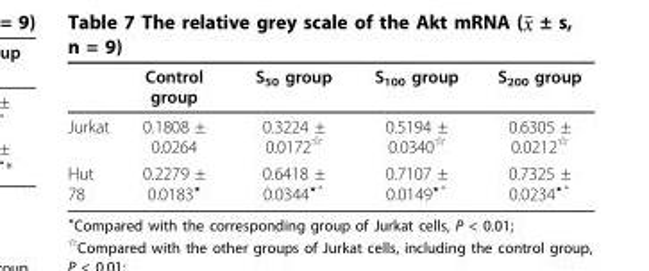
<table><thead><tr><td></td><td>Control group</td><td>S<sub>50</sub> group</td><td>S<sub>100</sub> group</td><td>S<sub>200</sub> group</td></tr></thead><tbody><tr><td>Jurkat</td><td>0.1808 ± 0.0264</td><td>0.3224 ± 0.0172<sup>✩</sup></td><td>0.5194 ± 0.0340<sup>✩</sup></td><td>0.6305 ± 0.0212<sup>✩</sup></td></tr><tr><td>Hut 78</td><td>0.2279 ± 0.0183<sup>⋆</sup></td><td>0.6418 ± 0.0344<sup>⋆▵</sup></td><td>0.7107 ± 0.0149<sup>⋆▵</sup></td><td>0.7325 ± 0.0234<sup>⋆▵</sup></td></tr></tbody></table>